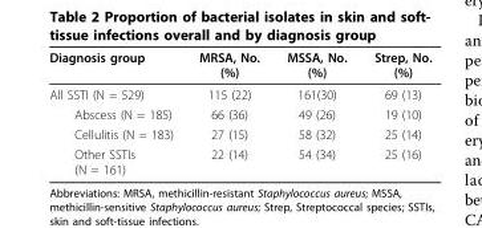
<table><thead><tr><td>Diagnosis group</td><td>MRSA, No. (%)</td><td>MSSA, No. (%)</td><td>Strep, No. (%)</td></tr></thead><tbody><tr><td>All SSTI (N = 529)</td><td>115 (22)</td><td>161(30)</td><td>69 (13)</td></tr><tr><td>Abscess (N = 185)</td><td>66 (36)</td><td>49 (26)</td><td>19 (10)</td></tr><tr><td>Cellulitis (N = 183)</td><td>27 (15)</td><td>58 (32)</td><td>25 (14)</td></tr><tr><td>Other SSTIs (N = 161)</td><td>22 (14)</td><td>54 (34)</td><td>25 (16)</td></tr></tbody></table>